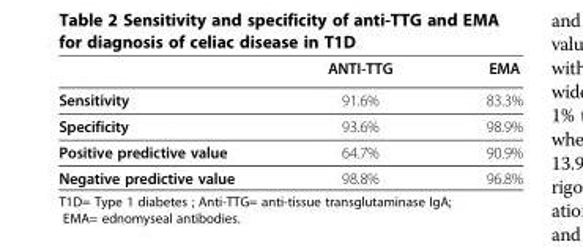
<table><thead><tr><td></td><td>ANTI-TTG</td><td>EMA</td></tr></thead><tbody><tr><td>Sensitivity</td><td>91.6%</td><td>83.3%</td></tr><tr><td>Specificity</td><td>93.6%</td><td>98.9%</td></tr><tr><td>Positive predictive value</td><td>64.7%</td><td>90.9%</td></tr><tr><td>Negative predictive value</td><td>98.8%</td><td>96.8%</td></tr></tbody></table>